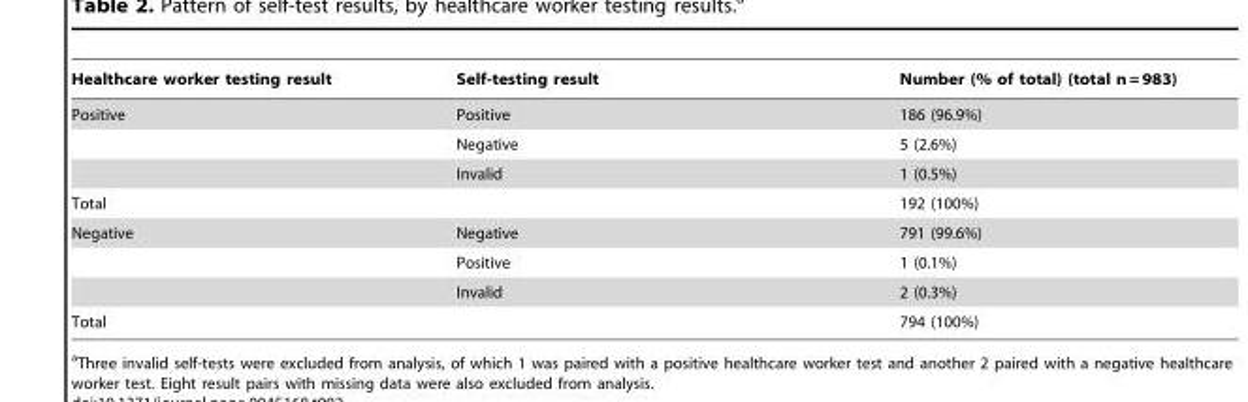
<table><thead><tr><td>Healthcare worker testing result</td><td>Self-testing result</td><td>Number (% of total) (total n = 983)</td></tr></thead><tbody><tr><td rowspan="3">Positive</td><td>Positive</td><td>186 (96.9%)</td></tr><tr><td>Negative</td><td>5 (2.6%)</td></tr><tr><td>Invalid</td><td>1 (0.5%)</td></tr><tr><td>Total</td><td></td><td>192 (100%)</td></tr><tr><td rowspan="3">Negative</td><td>Negative</td><td>791 (99.6%)</td></tr><tr><td>Positive</td><td>1 (0.1%)</td></tr><tr><td>Invalid</td><td>2 (0.3%)</td></tr><tr><td>Total</td><td></td><td>794 (100%)</td></tr></tbody></table>